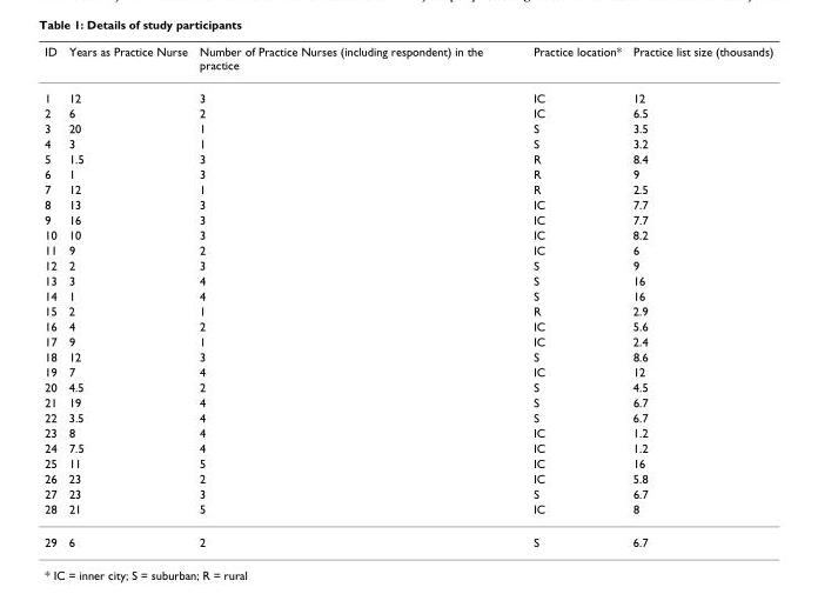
<table><thead><tr><td>ID</td><td>Years as Practice Nurse</td><td>Number of Practice Nurses (including respondent) in the practice</td><td>Practice location*</td><td>Practice list size (thousands)</td></tr></thead><tbody><tr><td>1</td><td>12</td><td>3</td><td>IC</td><td>12</td></tr><tr><td>2</td><td>6</td><td>2</td><td>IC</td><td>6.5</td></tr><tr><td>3</td><td>20</td><td>1</td><td>S</td><td>3.5</td></tr><tr><td>4</td><td>3</td><td>1</td><td>S</td><td>3.2</td></tr><tr><td>5</td><td>1.5</td><td>3</td><td>R</td><td>8.4</td></tr><tr><td>6</td><td>1</td><td>3</td><td>R</td><td>9</td></tr><tr><td>7</td><td>12</td><td>1</td><td>R</td><td>2.5</td></tr><tr><td>8</td><td>13</td><td>3</td><td>IC</td><td>7.7</td></tr><tr><td>9</td><td>16</td><td>3</td><td>IC</td><td>7.7</td></tr><tr><td>10</td><td>10</td><td>3</td><td>IC</td><td>8.2</td></tr><tr><td>11</td><td>9</td><td>2</td><td>IC</td><td>6</td></tr><tr><td>12</td><td>2</td><td>3</td><td>S</td><td>9</td></tr><tr><td>13</td><td>3</td><td>4</td><td>S</td><td>16</td></tr><tr><td>14</td><td>1</td><td>4</td><td>S</td><td>16</td></tr><tr><td>15</td><td>2</td><td>1</td><td>R</td><td>2.9</td></tr><tr><td>16</td><td>4</td><td>2</td><td>IC</td><td>5.6</td></tr><tr><td>17</td><td>9</td><td>1</td><td>IC</td><td>2.4</td></tr><tr><td>18</td><td>12</td><td>3</td><td>S</td><td>8.6</td></tr><tr><td>19</td><td>7</td><td>4</td><td>IC</td><td>12</td></tr><tr><td>20</td><td>4.5</td><td>2</td><td>S</td><td>4.5</td></tr><tr><td>21</td><td>19</td><td>4</td><td>S</td><td>6.7</td></tr><tr><td>22</td><td>3.5</td><td>4</td><td>S</td><td>6.7</td></tr><tr><td>23</td><td>8</td><td>4</td><td>IC</td><td>1.2</td></tr><tr><td>24</td><td>7.5</td><td>4</td><td>IC</td><td>1.2</td></tr><tr><td>25</td><td>11</td><td>5</td><td>IC</td><td>16</td></tr><tr><td>26</td><td>23</td><td>2</td><td>IC</td><td>5.8</td></tr><tr><td>27</td><td>23</td><td>3</td><td>S</td><td>6.7</td></tr><tr><td>28</td><td>21</td><td>5</td><td>IC</td><td>8</td></tr><tr><td>29</td><td>6</td><td>2</td><td>S</td><td>6.7</td></tr></tbody></table>